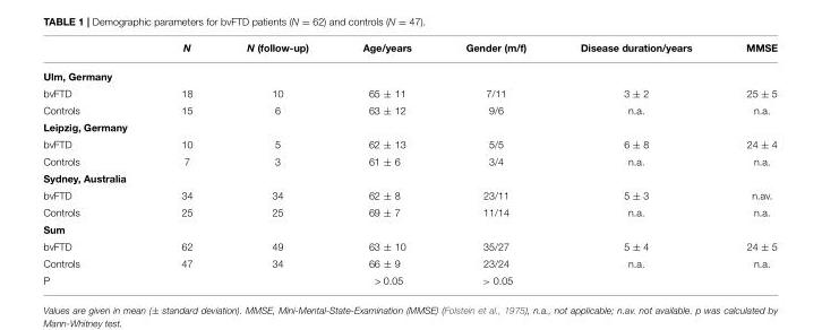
<table><thead><tr><td></td><td>N</td><td>N (follow-up)</td><td>Age/years</td><td>Gender (m/f)</td><td>Disease duration/years</td><td>MMSE</td></tr></thead><tbody><tr><td colspan="7">Ulm, Germany</td></tr><tr><td>bvFTD</td><td>18</td><td>10</td><td>65 ± 11</td><td>7/11</td><td>3 ± 2</td><td>25 ± 5</td></tr><tr><td>Controls</td><td>15</td><td>6</td><td>63 ± 12</td><td>9/6</td><td>n.a.</td><td>n.a.</td></tr><tr><td colspan="7">Leipzig, Germany</td></tr><tr><td>bvFTD</td><td>10</td><td>5</td><td>62 ± 13</td><td>5/5</td><td>6 ± 8</td><td>24 ± 4</td></tr><tr><td>Controls</td><td>7</td><td>3</td><td>61 ± 6</td><td>3/4</td><td>n.a.</td><td>n.a.</td></tr><tr><td colspan="7">Sydney, Australia</td></tr><tr><td>bvFTD</td><td>34</td><td>34</td><td>62 ± 8</td><td>23/11</td><td>5 ± 3</td><td>n.av.</td></tr><tr><td>Controls</td><td>25</td><td>25</td><td>69 ± 7</td><td>11/14</td><td>n.a.</td><td>n.a.</td></tr><tr><td colspan="7">Sum</td></tr><tr><td>bvFTD</td><td>62</td><td>49</td><td>63 ± 10</td><td>35/27</td><td>5 ± 4</td><td>24 ± 5</td></tr><tr><td>Controls</td><td>47</td><td>34</td><td>66 ± 9</td><td>23/24</td><td>n.a.</td><td>n.a.</td></tr><tr><td>P</td><td></td><td></td><td>&gt; 0.05</td><td>&gt; 0.05</td><td></td><td></td></tr></tbody></table>